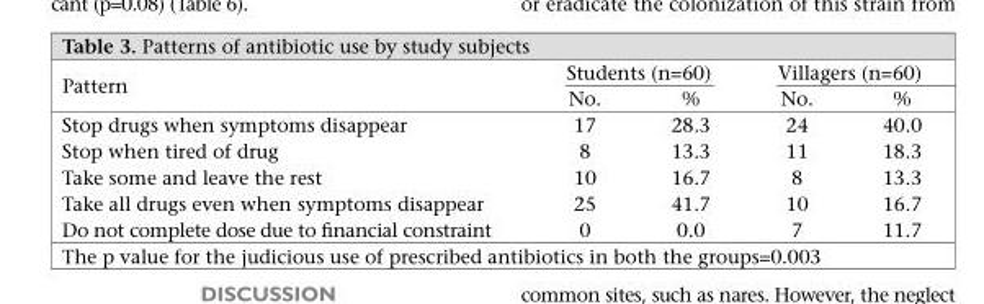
<table><thead><tr><td rowspan="2">Pattern</td><td colspan="2">Students (n=60)</td><td colspan="2">Villagers (n=60)</td></tr><tr><td>No.</td><td>%</td><td>No.</td><td>%</td></tr></thead><tbody><tr><td>Stop drugs when symptoms disappear</td><td>17</td><td>28.3</td><td>24</td><td>40.0</td></tr><tr><td>Stop when tired of drug</td><td>8</td><td>13.3</td><td>11</td><td>18.3</td></tr><tr><td>Take some and leave the rest</td><td>10</td><td>16.7</td><td>8</td><td>13.3</td></tr><tr><td>Take all drugs even when symptoms disappear</td><td>25</td><td>41.7</td><td>10</td><td>16.7</td></tr><tr><td>Do not complete dose due to financial constraint</td><td>0</td><td>0.0</td><td>7</td><td>11.7</td></tr></tbody></table>